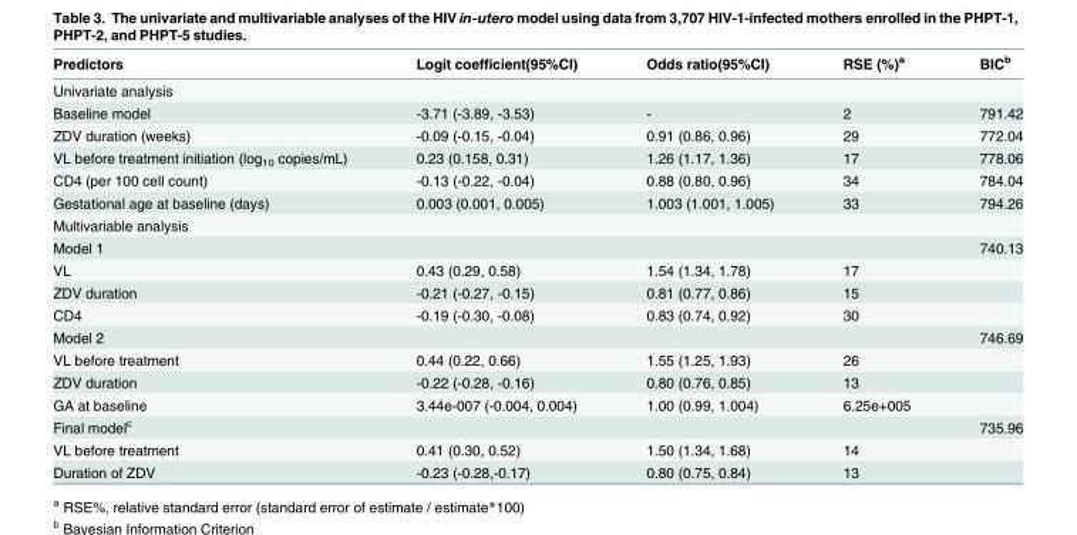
<table><thead><tr><td>Predictors</td><td>Logit coefficient(95%CI)</td><td>Odds ratio(95%CI)</td><td>RSE (%)<sup>a</sup></td><td>BIC<sup>b</sup></td></tr></thead><tbody><tr><td colspan="5">Univariate analysis</td></tr><tr><td>Baseline model</td><td>-3.71 (-3.89, -3.53)</td><td>-</td><td>2</td><td>791.42</td></tr><tr><td>ZDV duration (weeks)</td><td>-0.09 (-0.15, -0.04)</td><td>0.91 (0.86, 0.96)</td><td>29</td><td>772.04</td></tr><tr><td>VL before treatment initiation (log<sub>10</sub> copies/mL)</td><td>0.23 (0.158, 0.31)</td><td>1.26 (1.17, 1.36)</td><td>17</td><td>778.06</td></tr><tr><td>CD4 (per 100 cell count)</td><td>-0.13 (-0.22, -0.04)</td><td>0.88 (0.80, 0.96)</td><td>34</td><td>784.04</td></tr><tr><td>Gestational age at baseline (days)</td><td>0.003 (0.001, 0.005)</td><td>1.003 (1.001, 1.005)</td><td>33</td><td>794.26</td></tr><tr><td colspan="5">Multivariable analysis</td></tr><tr><td>Model 1</td><td></td><td></td><td></td><td>740.13</td></tr><tr><td>VL</td><td>0.43 (0.29, 0.58)</td><td>1.54 (1.34, 1.78)</td><td>17</td><td></td></tr><tr><td>ZDV duration</td><td>-0.21 (-0.27, -0.15)</td><td>0.81 (0.77, 0.86)</td><td>15</td><td></td></tr><tr><td>CD4</td><td>-0.19 (-0.30, -0.08)</td><td>0.83 (0.74, 0.92)</td><td>30</td><td></td></tr><tr><td>Model 2</td><td></td><td></td><td></td><td>746.69</td></tr><tr><td>VL before treatment</td><td>0.44 (0.22, 0.66)</td><td>1.55 (1.25, 1.93)</td><td>26</td><td></td></tr><tr><td>ZDV duration</td><td>-0.22 (-0.28, -0.16)</td><td>0.80 (0.76, 0.85)</td><td>13</td><td></td></tr><tr><td>GA at baseline</td><td>3.44e-007 (-0.004, 0.004)</td><td>1.00 (0.99, 1.004)</td><td>6.25e+005</td><td></td></tr><tr><td>Final model<sup>c</sup></td><td></td><td></td><td></td><td>735.96</td></tr><tr><td>VL before treatment</td><td>0.41 (0.30, 0.52)</td><td>1.50 (1.34, 1.68)</td><td>14</td><td></td></tr><tr><td>Duration of ZDV</td><td>-0.23 (-0.28,-0.17)</td><td>0.80 (0.75, 0.84)</td><td>13</td><td></td></tr></tbody></table>